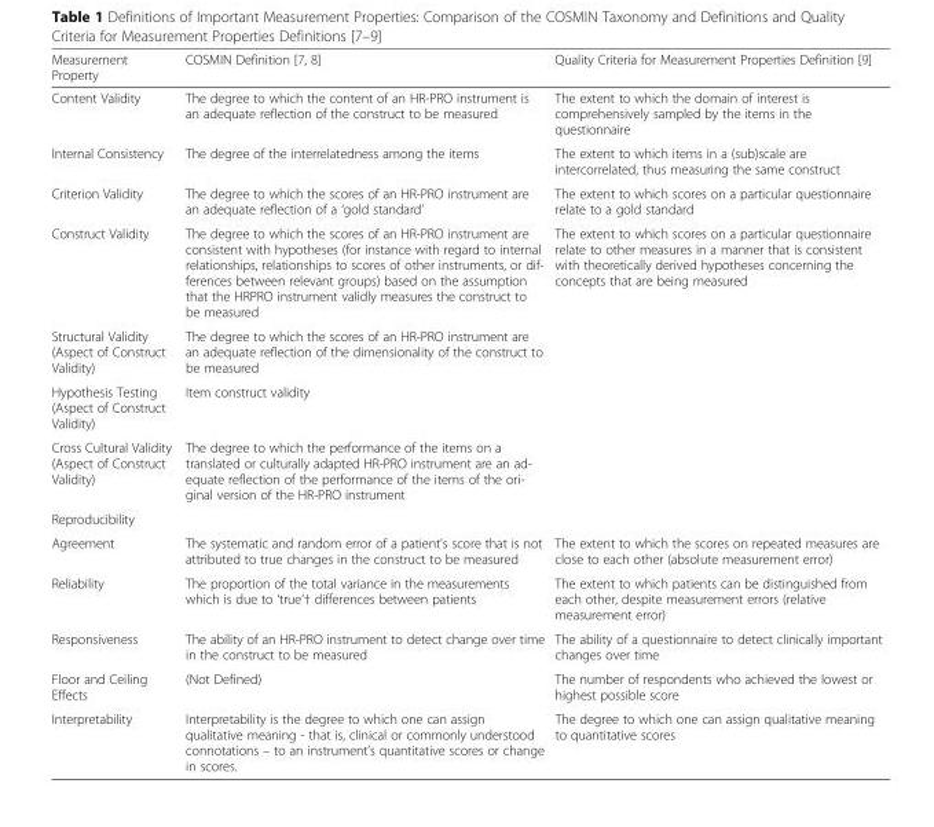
<table><thead><tr><td>Measurement Property</td><td>COSMIN Definition [7, 8]</td><td>Quality Criteria for Measurement Properties Definition [9]</td></tr></thead><tbody><tr><td>Content Validity</td><td>The degree to which the content of an HR-PRO instrument is an adequate reflection of the construct to be measured</td><td>The extent to which the domain of interest is comprehensively sampled by the items in the questionnaire</td></tr><tr><td>Internal Consistency</td><td>The degree of the interrelatedness among the items</td><td>The extent to which items in a (sub)scale are intercorrelated, thus measuring the same construct</td></tr><tr><td>Criterion Validity</td><td>The degree to which the scores of an HR-PRO instrument are an adequate reflection of a ‘gold standard’</td><td>The extent to which scores on a particular questionnaire relate to a gold standard</td></tr><tr><td>Construct Validity</td><td>The degree to which the scores of an HR-PRO instrument are consistent with hypotheses (for instance with regard to internal relationships, relationships to scores of other instruments, or dif- ferences between relevant groups) based on the assumption that the HRPRO instrument validly measures the construct to be measured</td><td rowspan="4">The extent to which scores on a particular questionnaire relate to other measures in a manner that is consistent with theoretically derived hypotheses concerning the concepts that are being measured</td></tr><tr><td>Structural Validity (Aspect of Construct Validity)</td><td>The degree to which the scores of an HR-PRO instrument are an adequate reflection of the dimensionality of the construct to be measured</td></tr><tr><td>Hypothesis Testing (Aspect of Construct Validity)</td><td>Item construct validity</td></tr><tr><td>Cross Cultural Validity (Aspect of Construct Validity)</td><td>The degree to which the performance of the items on a translated or culturally adapted HR-PRO instrument are an ad- equate reflection of the performance of the items of the ori- ginal version of the HR-PRO instrument</td></tr><tr><td colspan="3">Reproducibility</td></tr><tr><td>Agreement</td><td>The systematic and random error of a patient’s score that is not attributed to true changes in the construct to be measured</td><td>The extent to which the scores on repeated measures are close to each other (absolute measurement error)</td></tr><tr><td>Reliability</td><td>The proportion of the total variance in the measurements which is due to ‘true’† differences between patients</td><td>The extent to which patients can be distinguished from each other, despite measurement errors (relative measurement error)</td></tr><tr><td>Responsiveness</td><td>The ability of an HR-PRO instrument to detect change over time in the construct to be measured</td><td>The ability of a questionnaire to detect clinically important changes over time</td></tr><tr><td>Floor and Ceiling Effects</td><td>(Not Defined)</td><td>The number of respondents who achieved the lowest or highest possible score</td></tr><tr><td>Interpretability</td><td>Interpretability is the degree to which one can assign qualitative meaning - that is, clinical or commonly understood connotations – to an instrument’s quantitative scores or change in scores.</td><td>The degree to which one can assign qualitative meaning to quantitative scores</td></tr></tbody></table>